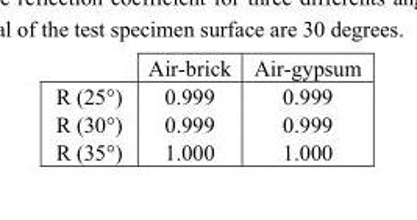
<table><thead><tr><td></td><td>Air-brick</td><td>Air-gypsum</td></tr></thead><tbody><tr><td>R (25°)</td><td>0.999</td><td>0.999</td></tr><tr><td>R (30°)</td><td>0.999</td><td>0.999</td></tr><tr><td>R (35°)</td><td>1.000</td><td>1.000</td></tr></tbody></table>